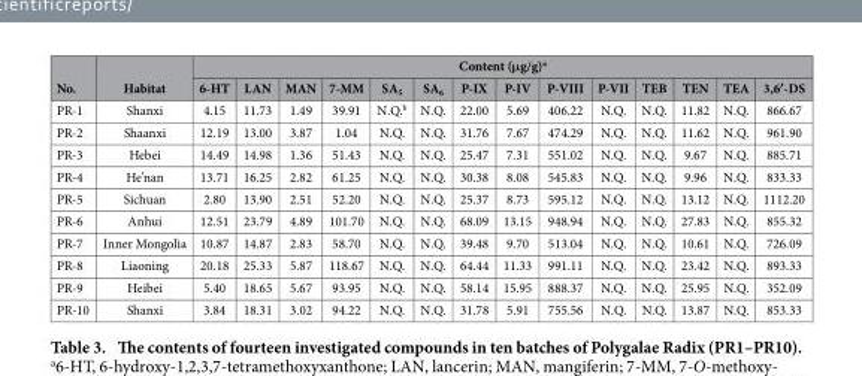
<table><thead><tr><td rowspan="2">No.</td><td rowspan="2">Habitat</td><td colspan="14">Content (μg/g)<sup>a</sup></td></tr><tr><td>6-HT</td><td>LAN</td><td>MAN</td><td>7-MM</td><td>SA<sub>5</sub></td><td>SA<sub>6</sub></td><td>P-IX</td><td>P-IV</td><td>P-VIII</td><td>P-VII</td><td>TEB</td><td>TEN</td><td>TEA</td><td>3,6′-DS</td></tr></thead><tbody><tr><td>PR-1</td><td>Shanxi</td><td>4.15</td><td>11.73</td><td>1.49</td><td>39.91</td><td>N.Q.<sup>b</sup></td><td>N.Q.</td><td>22.00</td><td>5.69</td><td>406.22</td><td>N.Q.</td><td>N.Q.</td><td>11.82</td><td>N.Q.</td><td>866.67</td></tr><tr><td>PR-2</td><td>Shaanxi</td><td>12.19</td><td>13.00</td><td>3.87</td><td>1.04</td><td>N.Q.</td><td>N.Q.</td><td>31.76</td><td>7.67</td><td>474.29</td><td>N.Q.</td><td>N.Q.</td><td>11.62</td><td>N.Q.</td><td>961.90</td></tr><tr><td>PR-3</td><td>Hebei</td><td>14.49</td><td>14.98</td><td>1.36</td><td>51.43</td><td>N.Q.</td><td>N.Q.</td><td>25.47</td><td>7.31</td><td>551.02</td><td>N.Q.</td><td>N.Q.</td><td>9.67</td><td>N.Q.</td><td>885.71</td></tr><tr><td>PR-4</td><td>He’nan</td><td>13.71</td><td>16.25</td><td>2.82</td><td>61.25</td><td>N.Q.</td><td>N.Q.</td><td>30.38</td><td>8.08</td><td>545.83</td><td>N.Q.</td><td>N.Q.</td><td>9.96</td><td>N.Q.</td><td>833.33</td></tr><tr><td>PR-5</td><td>Sichuan</td><td>2.80</td><td>13.90</td><td>2.51</td><td>52.20</td><td>N.Q.</td><td>N.Q.</td><td>25.37</td><td>8.73</td><td>595.12</td><td>N.Q.</td><td>N.Q.</td><td>13.12</td><td>N.Q.</td><td>1112.20</td></tr><tr><td>PR-6</td><td>Anhui</td><td>12.51</td><td>23.79</td><td>4.89</td><td>101.70</td><td>N.Q.</td><td>N.Q.</td><td>68.09</td><td>13.15</td><td>948.94</td><td>N.Q.</td><td>N.Q.</td><td>27.83</td><td>N.Q.</td><td>855.32</td></tr><tr><td>PR-7</td><td>Inner Mongolia</td><td>10.87</td><td>14.87</td><td>2.83</td><td>58.70</td><td>N.Q.</td><td>N.Q.</td><td>39.48</td><td>9.70</td><td>513.04</td><td>N.Q.</td><td>N.Q.</td><td>10.61</td><td>N.Q.</td><td>726.09</td></tr><tr><td>PR-8</td><td>Liaoning</td><td>20.18</td><td>25.33</td><td>5.87</td><td>118.67</td><td>N.Q.</td><td>N.Q.</td><td>64.44</td><td>11.33</td><td>991.11</td><td>N.Q.</td><td>N.Q.</td><td>23.42</td><td>N.Q.</td><td>893.33</td></tr><tr><td>PR-9</td><td>Heibei</td><td>5.40</td><td>18.65</td><td>5.67</td><td>93.95</td><td>N.Q.</td><td>N.Q.</td><td>58.14</td><td>15.95</td><td>888.37</td><td>N.Q.</td><td>N.Q.</td><td>25.95</td><td>N.Q.</td><td>352.09</td></tr><tr><td>PR-10</td><td>Shanxi</td><td>3.84</td><td>18.31</td><td>3.02</td><td>94.22</td><td>N.Q.</td><td>N.Q.</td><td>31.78</td><td>5.91</td><td>755.56</td><td>N.Q.</td><td>N.Q.</td><td>13.87</td><td>N.Q.</td><td>853.33</td></tr></tbody></table>